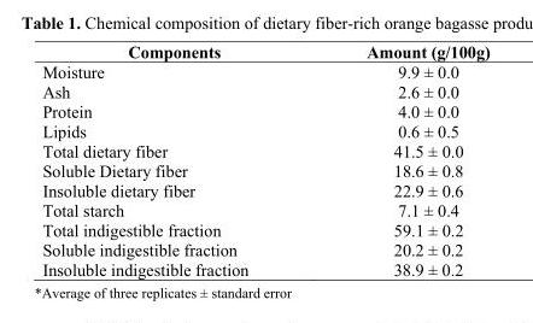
<table><thead><tr><td>Components</td><td>Amount (g/100g)</td></tr></thead><tbody><tr><td>Moisture</td><td>9.9 ± 0.0</td></tr><tr><td>Ash</td><td>2.6 ± 0.0</td></tr><tr><td>Protein</td><td>4.0 ± 0.0</td></tr><tr><td>Lipids</td><td>0.6 ± 0.5</td></tr><tr><td>Total dietary fiber</td><td>41.5 ± 0.0</td></tr><tr><td>Soluble Dietary fiber</td><td>18.6 ± 0.8</td></tr><tr><td>Insoluble dietary fiber</td><td>22.9 ± 0.6</td></tr><tr><td>Total starch</td><td>7.1 ± 0.4</td></tr><tr><td>Total indigestible fraction</td><td>59.1 ± 0.2</td></tr><tr><td>Soluble indigestible fraction</td><td>20.2 ± 0.2</td></tr><tr><td>Insoluble indigestible fraction</td><td>38.9 ± 0.2</td></tr></tbody></table>